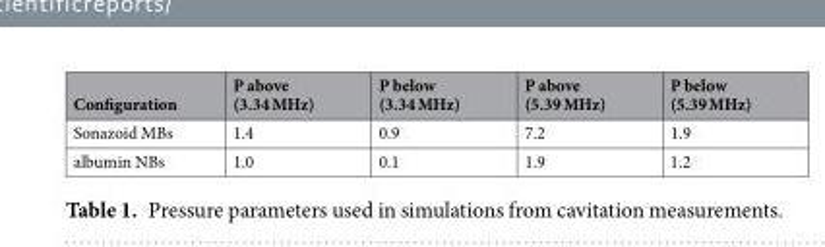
<table><thead><tr><td>Configuration</td><td>P above (3.34 MHz)</td><td>P below (3.34 MHz)</td><td>P above (5.39 MHz)</td><td>P below (5.39 MHz)</td></tr></thead><tbody><tr><td>Sonazoid MBs</td><td>1.4</td><td>0.9</td><td>7.2</td><td>1.9</td></tr><tr><td>albumin NBs</td><td>1.0</td><td>0.1</td><td>1.9</td><td>1.2</td></tr></tbody></table>